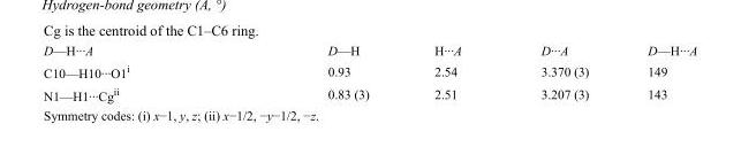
<table><tbody><tr><td>D—H···A</td><td>D—H</td><td>H···A</td><td>D···A</td><td>D—H···A</td></tr><tr><td>C10—H10···O1<sup>i</sup></td><td>0.93</td><td>2.54</td><td>3.370 (3)</td><td>149</td></tr><tr><td>N1—H1···Cg<sup>ii</sup></td><td>0.83 (3)</td><td>2.51</td><td>3.207 (3)</td><td>143</td></tr></tbody></table>